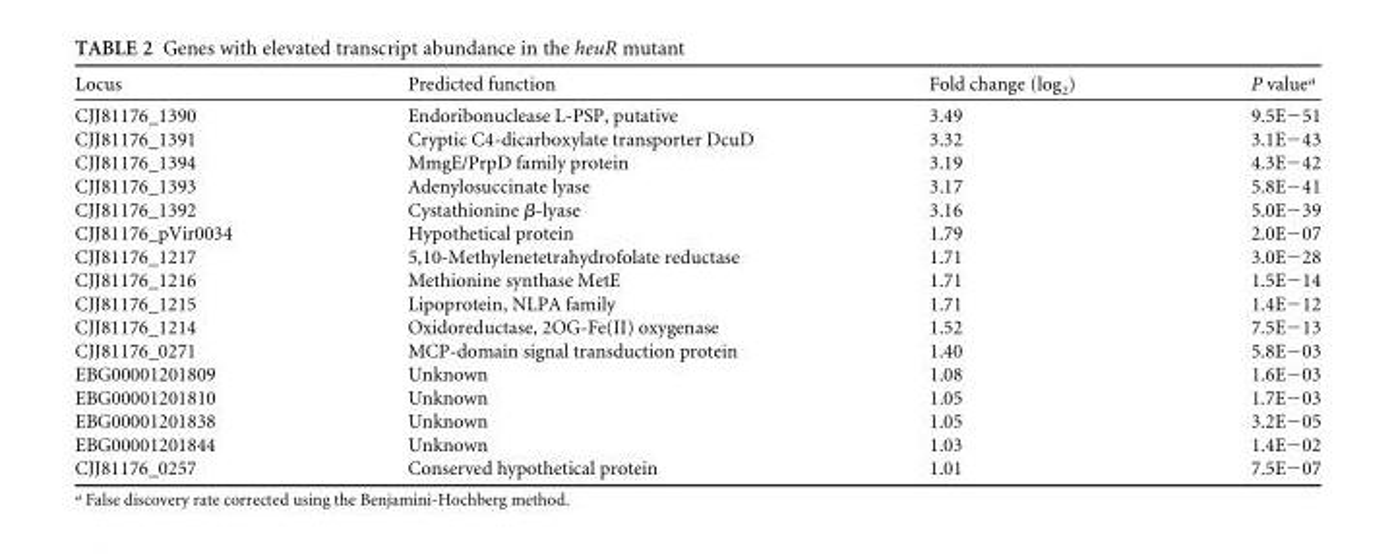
<table><thead><tr><td>Locus</td><td>Predicted function</td><td>Fold change (log<sub>2</sub>)</td><td>P value<sup>a</sup></td></tr></thead><tbody><tr><td>CJJ81176_1390</td><td>Endoribonuclease L-PSP, putative</td><td>3.49</td><td>9.5E−51</td></tr><tr><td>CJJ81176_1391</td><td>Cryptic C4-dicarboxylate transporter DcuD</td><td>3.32</td><td>3.1E−43</td></tr><tr><td>CJJ81176_1394</td><td>MmgE/PrpD family protein</td><td>3.19</td><td>4.3E−42</td></tr><tr><td>CJJ81176_1393</td><td>Adenylosuccinate lyase</td><td>3.17</td><td>5.8E−41</td></tr><tr><td>CJJ81176_1392</td><td>Cystathionine β-lyase</td><td>3.16</td><td>5.0E−39</td></tr><tr><td>CJJ81176_pVir0034</td><td>Hypothetical protein</td><td>1.79</td><td>2.0E−07</td></tr><tr><td>CJJ81176_1217</td><td>5,10-Methylenetetrahydrofolate reductase</td><td>1.71</td><td>3.0E−28</td></tr><tr><td>CJJ81176_1216</td><td>Methionine synthase MetE</td><td>1.71</td><td>1.5E−14</td></tr><tr><td>CJJ81176_1215</td><td>Lipoprotein, NLPA family</td><td>1.71</td><td>1.4E−12</td></tr><tr><td>CJJ81176_1214</td><td>Oxidoreductase, 2OG-Fe(II) oxygenase</td><td>1.52</td><td>7.5E−13</td></tr><tr><td>CJJ81176_0271</td><td>MCP-domain signal transduction protein</td><td>1.40</td><td>5.8E−03</td></tr><tr><td>EBG00001201809</td><td>Unknown</td><td>1.08</td><td>1.6E−03</td></tr><tr><td>EBG00001201810</td><td>Unknown</td><td>1.05</td><td>1.7E−03</td></tr><tr><td>EBG00001201838</td><td>Unknown</td><td>1.05</td><td>3.2E−05</td></tr><tr><td>EBG00001201844</td><td>Unknown</td><td>1.03</td><td>1.4E−02</td></tr><tr><td>CJJ81176_0257</td><td>Conserved hypothetical protein</td><td>1.01</td><td>7.5E−07</td></tr></tbody></table>